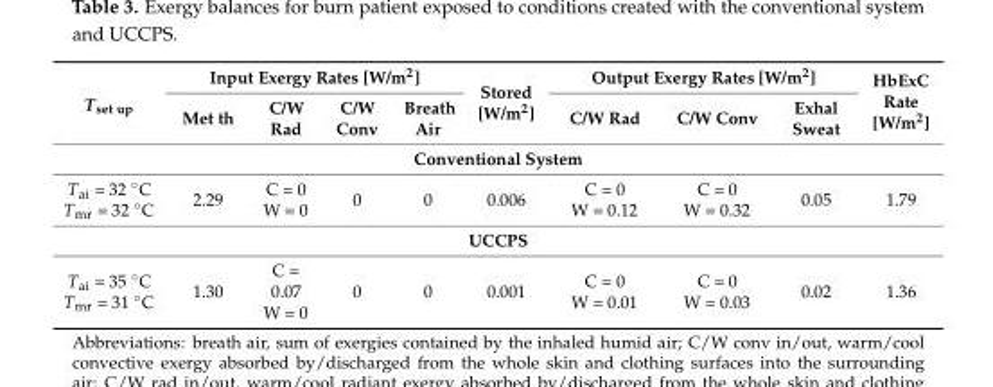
<table><thead><tr><td rowspan="2">T<sub>set up</sub></td><td colspan="4">Input Exergy Rates [W/m<sup>2</sup>]</td><td rowspan="2">Stored [W/m<sup>2</sup>]</td><td colspan="3">Output Exergy Rates [W/m<sup>2</sup>]</td><td rowspan="2">HbExC Rate [W/m<sup>2</sup>]</td></tr><tr><td>Met th</td><td>C/W Rad</td><td>C/W Conv</td><td>Breath Air</td><td>C/W Rad</td><td>C/W Conv</td><td>Exhal Sweat</td></tr></thead><tbody><tr><td colspan="10">Conventional System</td></tr><tr><td>Tai = 32 ◦C Tmr = 32 ◦C</td><td>2.29</td><td>C = 0 W = 0</td><td>0</td><td>0</td><td>0.006</td><td>C = 0 W = 0.12</td><td>C = 0 W = 0.32</td><td>0.05</td><td>1.79</td></tr><tr><td colspan="10">UCCPS</td></tr><tr><td>Tai = 35 ◦C Tmr = 31 ◦C</td><td>1.30</td><td>C = 0.07 W = 0</td><td>0</td><td>0</td><td>0.001</td><td>C = 0 W = 0.01</td><td>C = 0 W = 0.03</td><td>0.02</td><td>1.36</td></tr></tbody></table>